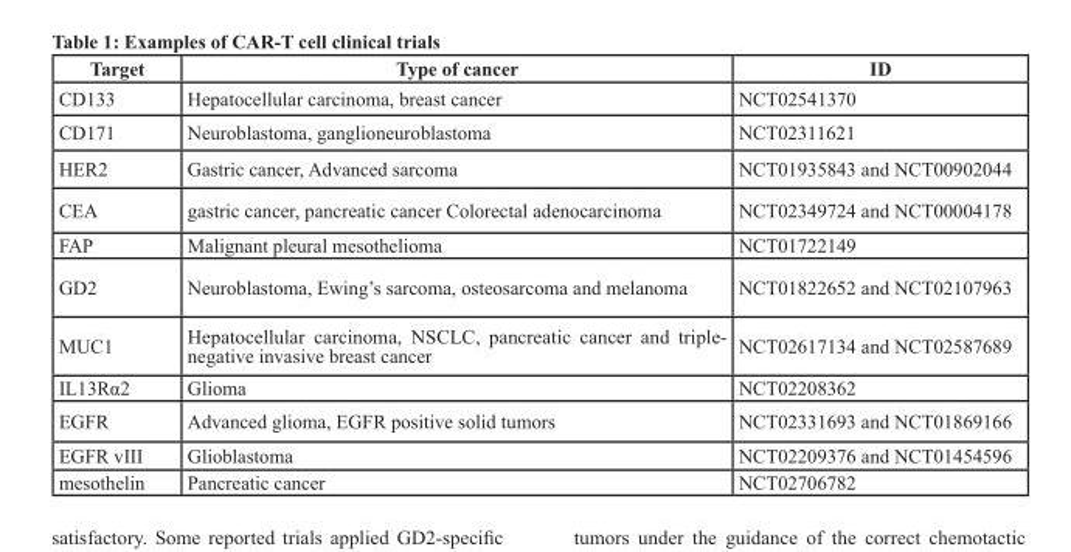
<table><thead><tr><td>Target</td><td>Type of cancer</td><td>ID</td></tr></thead><tbody><tr><td>CD133</td><td>Hepatocellular carcinoma, breast cancer</td><td>NCT02541370</td></tr><tr><td>CD171</td><td>Neuroblastoma, ganglioneuroblastoma</td><td>NCT02311621</td></tr><tr><td>HER2</td><td>Gastric cancer, Advanced sarcoma</td><td>NCT01935843 and NCT00902044</td></tr><tr><td>CEA</td><td>gastric cancer, pancreatic cancer Colorectal adenocarcinoma</td><td>NCT02349724 and NCT00004178</td></tr><tr><td>FAP</td><td>Malignant pleural mesothelioma</td><td>NCT01722149</td></tr><tr><td>GD2</td><td>Neuroblastoma, Ewing’s sarcoma, osteosarcoma and melanoma</td><td>NCT01822652 and NCT02107963</td></tr><tr><td>MUC1</td><td>Hepatocellular carcinoma, NSCLC, pancreatic cancer and triple- negative invasive breast cancer</td><td>NCT02617134 and NCT02587689</td></tr><tr><td>IL13Rα2</td><td>Glioma</td><td>NCT02208362</td></tr><tr><td>EGFR</td><td>Advanced glioma, EGFR positive solid tumors</td><td>NCT02331693 and NCT01869166</td></tr><tr><td>EGFR vIII</td><td>Glioblastoma</td><td>NCT02209376 and NCT01454596</td></tr><tr><td>mesothelin</td><td>Pancreatic cancer</td><td>NCT02706782</td></tr></tbody></table>